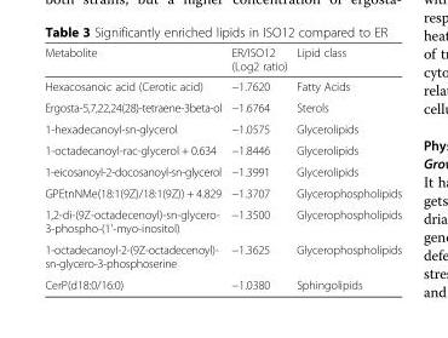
<table><thead><tr><td>Metabolite</td><td>ER/ISO12 (Log2 ratio)</td><td>Lipid class</td></tr></thead><tbody><tr><td>Hexacosanoic acid (Cerotic acid)</td><td>−1.7620</td><td>Fatty Acids</td></tr><tr><td>Ergosta-5,7,22,24(28)-tetraene-3beta-ol</td><td>−1.6764</td><td>Sterols</td></tr><tr><td>1-hexadecanoyl-sn-glycerol</td><td>−1.0575</td><td>Glycerolipids</td></tr><tr><td>1-octadecanoyl-rac-glycerol + 0.634</td><td>−1.8446</td><td>Glycerolipids</td></tr><tr><td>1-eicosanoyl-2-docosanoyl-sn-glycerol</td><td>−1.3991</td><td>Glycerolipids</td></tr><tr><td>GPEtnNMe(18:1(9Z)/18:1(9Z)) + 4.829</td><td>−1.3707</td><td>Glycerophospholipids</td></tr><tr><td>1,2-di-(9Z-octadecenoyl)-sn-glycero- 3-phospho-(1&#x27;-myo-inositol)</td><td>−1.3500</td><td>Glycerophospholipids</td></tr><tr><td>1-octadecanoyl-2-(9Z-octadecenoyl)- sn-glycero-3-phosphoserine</td><td>−1.3625</td><td>Glycerophospholipids</td></tr><tr><td>CerP(d18:0/16:0)</td><td>−1.0380</td><td>Sphingolipids</td></tr></tbody></table>